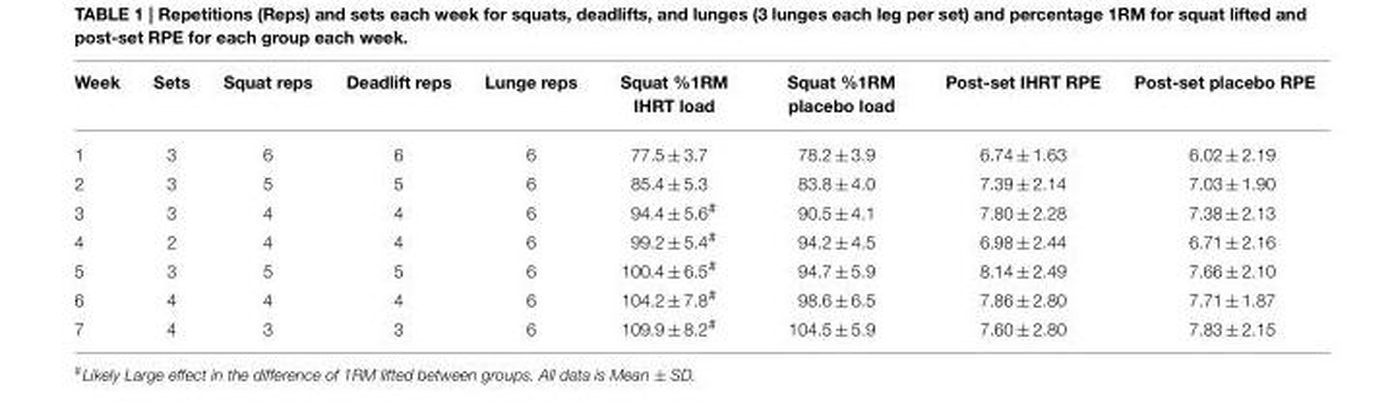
<table><thead><tr><td>Week</td><td>Sets</td><td>Squat reps</td><td>Deadlift reps</td><td>Lunge reps</td><td>Squat %1RM IHRT load</td><td>Squat %1RM placebo load</td><td>Post-set IHRT RPE</td><td>Post-set placebo RPE</td></tr></thead><tbody><tr><td>1</td><td>3</td><td>6</td><td>6</td><td>6</td><td>77.5 ± 3.7</td><td>78.2 ± 3.9</td><td>6.74 ± 1.63</td><td>6.02 ± 2.19</td></tr><tr><td>2</td><td>3</td><td>5</td><td>5</td><td>6</td><td>85.4 ± 5.3</td><td>83.8 ± 4.0</td><td>7.39 ± 2.14</td><td>7.03 ± 1.90</td></tr><tr><td>3</td><td>3</td><td>4</td><td>4</td><td>6</td><td>94.4 ± 5.6<sup>#</sup></td><td>90.5 ± 4.1</td><td>7.80 ± 2.28</td><td>7.38 ± 2.13</td></tr><tr><td>4</td><td>2</td><td>4</td><td>4</td><td>6</td><td>99.2 ± 5.4<sup>#</sup></td><td>94.2 ± 4.5</td><td>6.98 ± 2.44</td><td>6.71 ± 2.16</td></tr><tr><td>5</td><td>3</td><td>5</td><td>5</td><td>6</td><td>100.4 ± 6.5<sup>#</sup></td><td>94.7 ± 5.9</td><td>8.14 ± 2.49</td><td>7.66 ± 2.10</td></tr><tr><td>6</td><td>4</td><td>4</td><td>4</td><td>6</td><td>104.2 ± 7.8<sup>#</sup></td><td>98.6 ± 6.5</td><td>7.86 ± 2.80</td><td>7.71 ± 1.87</td></tr><tr><td>7</td><td>4</td><td>3</td><td>3</td><td>6</td><td>109.9 ± 8.2<sup>#</sup></td><td>104.5 ± 5.9</td><td>7.60 ± 2.80</td><td>7.83 ± 2.15</td></tr></tbody></table>